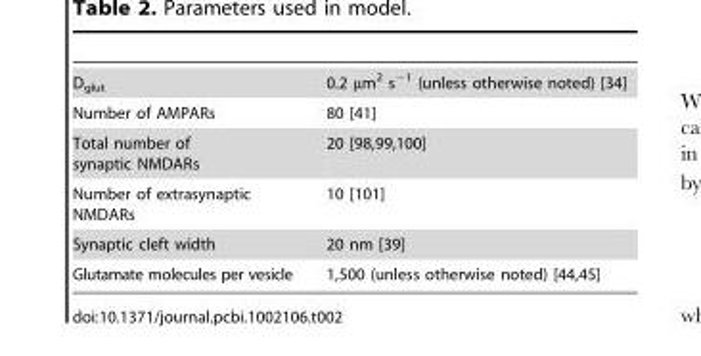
<table><tbody><tr><td>D<sub>glut</sub></td><td>0.2 µm<sup>2</sup> s<sup>−1</sup> (unless otherwise noted) [34]</td></tr><tr><td>Number of AMPARs</td><td>80 [41]</td></tr><tr><td>Total number of synaptic NMDARs</td><td>20 [98,99,100]</td></tr><tr><td>Number of extrasynaptic NMDARs</td><td>10 [101]</td></tr><tr><td>Synaptic cleft width</td><td>20 nm [39]</td></tr><tr><td>Glutamate molecules per vesicle</td><td>1,500 (unless otherwise noted) [44,45]</td></tr></tbody></table>